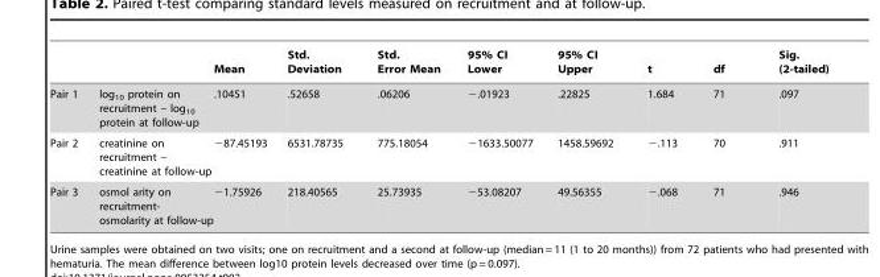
<table><thead><tr><td></td><td></td><td>Mean</td><td>Std. Deviation</td><td>Std. Error Mean</td><td>95% CI Lower</td><td>95% CI Upper</td><td>t</td><td>df</td><td>Sig. (2-tailed)</td></tr></thead><tbody><tr><td>Pair 1</td><td>log<sub>10</sub> protein on recruitment – log<sub>10</sub> protein at follow-up</td><td>.10451</td><td>.52658</td><td>.06206</td><td>−.01923</td><td>.22825</td><td>1.684</td><td>71</td><td>.097</td></tr><tr><td>Pair 2</td><td>creatinine on recruitment – creatinine at follow-up</td><td>−87.45193</td><td>6531.78735</td><td>775.18054</td><td>−1633.50077</td><td>1458.59692</td><td>−.113</td><td>70</td><td>.911</td></tr><tr><td>Pair 3</td><td>osmol arity on recruitment- osmolarity at follow-up</td><td>−1.75926</td><td>218.40565</td><td>25.73935</td><td>−53.08207</td><td>49.56355</td><td>−.068</td><td>71</td><td>.946</td></tr></tbody></table>